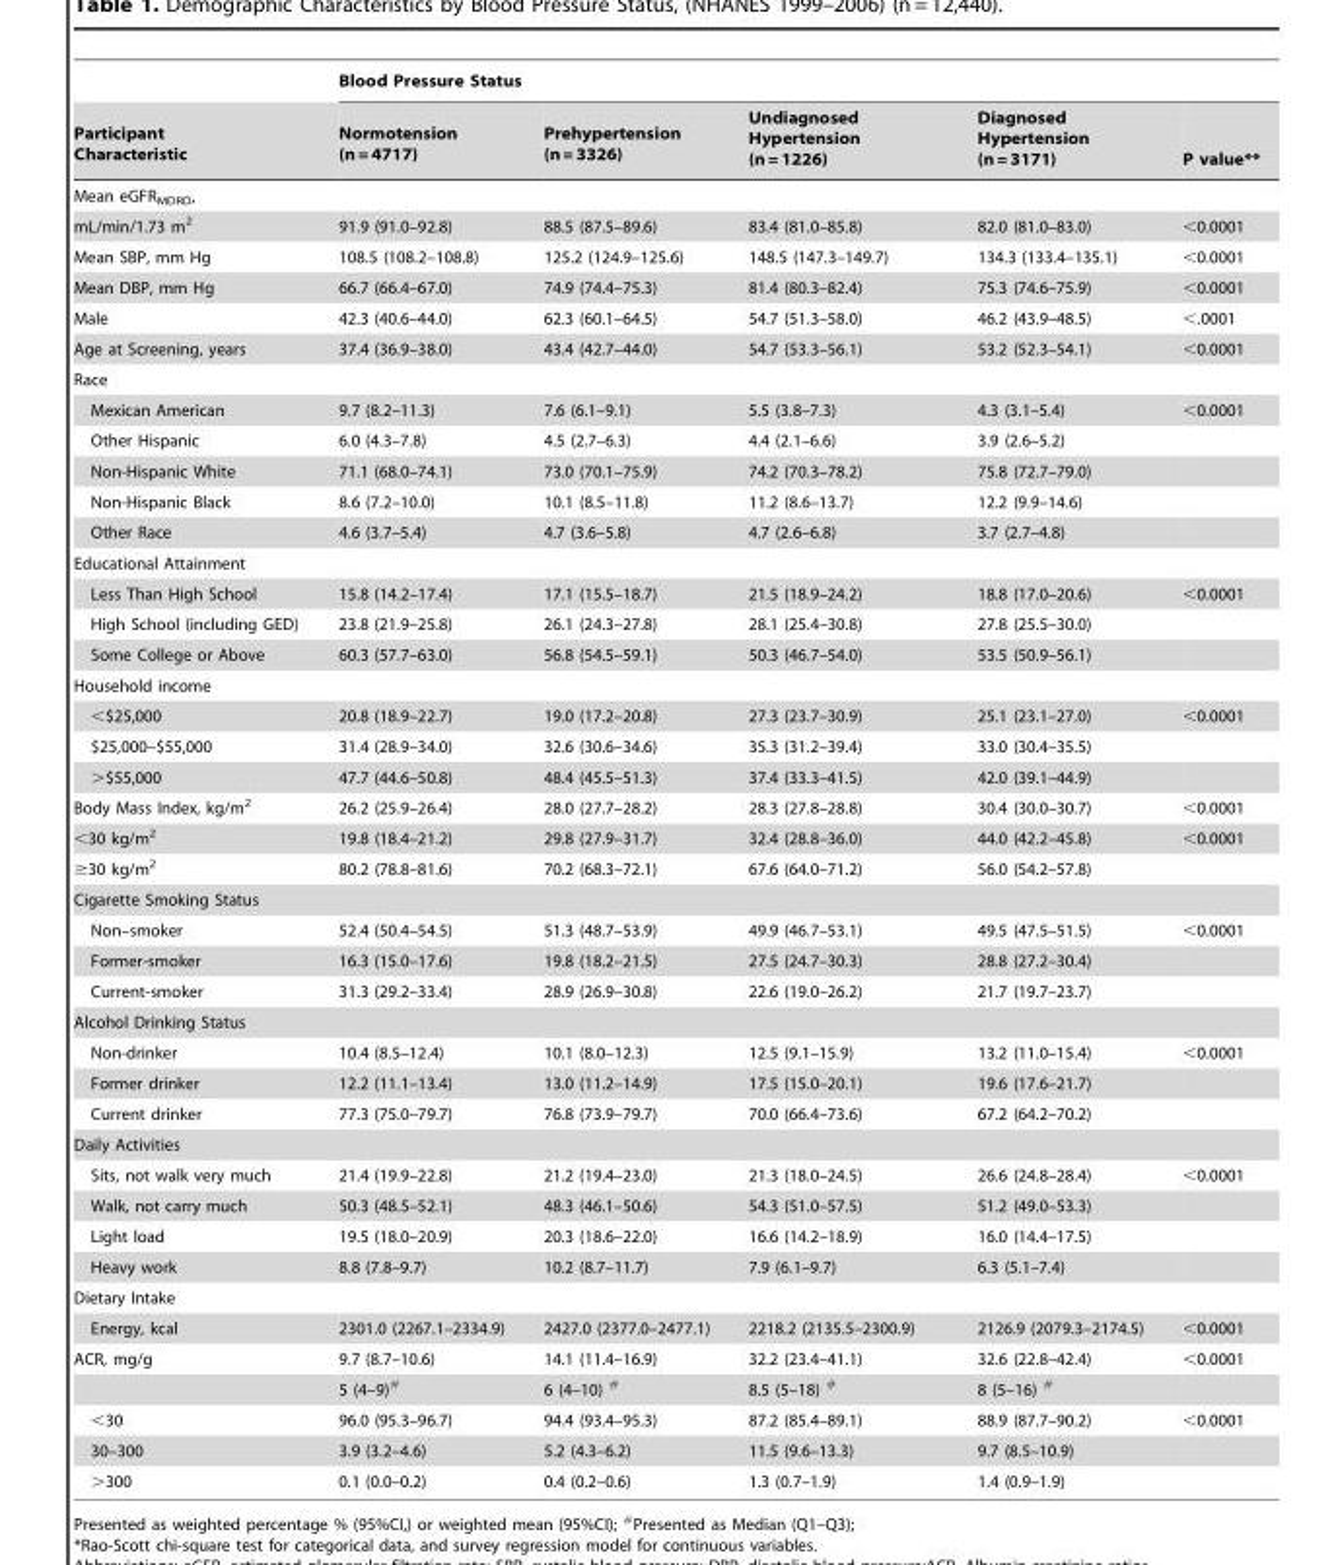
<table><thead><tr><td rowspan="2">Participant Characteristic</td><td colspan="5">Blood Pressure Status</td></tr><tr><td>Normotension (n = 4717)</td><td>Prehypertension (n = 3326)</td><td>Undiagnosed Hypertension (n = 1226)</td><td>Diagnosed Hypertension (n = 3171)</td><td>P value**</td></tr></thead><tbody><tr><td colspan="6">Mean eGFR<sub>MDRD</sub>,</td></tr><tr><td>mL/min/1.73 m<sup>2</sup></td><td>91.9 (91.0–92.8)</td><td>88.5 (87.5–89.6)</td><td>83.4 (81.0–85.8)</td><td>82.0 (81.0–83.0)</td><td>&lt;0.0001</td></tr><tr><td>Mean SBP, mm Hg</td><td>108.5 (108.2–108.8)</td><td>125.2 (124.9–125.6)</td><td>148.5 (147.3–149.7)</td><td>134.3 (133.4–135.1)</td><td>&lt;0.0001</td></tr><tr><td>Mean DBP, mm Hg</td><td>66.7 (66.4–67.0)</td><td>74.9 (74.4–75.3)</td><td>81.4 (80.3–82.4)</td><td>75.3 (74.6–75.9)</td><td>&lt;0.0001</td></tr><tr><td>Male</td><td>42.3 (40.6–44.0)</td><td>62.3 (60.1–64.5)</td><td>54.7 (51.3–58.0)</td><td>46.2 (43.9–48.5)</td><td>&lt;.0001</td></tr><tr><td>Age at Screening, years</td><td>37.4 (36.9–38.0)</td><td>43.4 (42.7–44.0)</td><td>54.7 (53.3–56.1)</td><td>53.2 (52.3–54.1)</td><td>&lt;0.0001</td></tr><tr><td colspan="6">Race</td></tr><tr><td>Mexican American</td><td>9.7 (8.2–11.3)</td><td>7.6 (6.1–9.1)</td><td>5.5 (3.8–7.3)</td><td>4.3 (3.1–5.4)</td><td>&lt;0.0001</td></tr><tr><td>Other Hispanic</td><td>6.0 (4.3–7.8)</td><td>4.5 (2.7–6.3)</td><td>4.4 (2.1–6.6)</td><td>3.9 (2.6–5.2)</td><td></td></tr><tr><td>Non-Hispanic White</td><td>71.1 (68.0–74.1)</td><td>73.0 (70.1–75.9)</td><td>74.2 (70.3–78.2)</td><td>75.8 (72.7–79.0)</td><td></td></tr><tr><td>Non-Hispanic Black</td><td>8.6 (7.2–10.0)</td><td>10.1 (8.5–11.8)</td><td>11.2 (8.6–13.7)</td><td>12.2 (9.9–14.6)</td><td></td></tr><tr><td>Other Race</td><td>4.6 (3.7–5.4)</td><td>4.7 (3.6–5.8)</td><td>4.7 (2.6–6.8)</td><td>3.7 (2.7–4.8)</td><td></td></tr><tr><td colspan="6">Educational Attainment</td></tr><tr><td>Less Than High School</td><td>15.8 (14.2–17.4)</td><td>17.1 (15.5–18.7)</td><td>21.5 (18.9–24.2)</td><td>18.8 (17.0–20.6)</td><td>&lt;0.0001</td></tr><tr><td>High School (including GED)</td><td>23.8 (21.9–25.8)</td><td>26.1 (24.3–27.8)</td><td>28.1 (25.4–30.8)</td><td>27.8 (25.5–30.0)</td><td></td></tr><tr><td>Some College or Above</td><td>60.3 (57.7–63.0)</td><td>56.8 (54.5–59.1)</td><td>50.3 (46.7–54.0)</td><td>53.5 (50.9–56.1)</td><td></td></tr><tr><td colspan="6">Household income</td></tr><tr><td>&lt;$25,000</td><td>20.8 (18.9–22.7)</td><td>19.0 (17.2–20.8)</td><td>27.3 (23.7–30.9)</td><td>25.1 (23.1–27.0)</td><td>&lt;0.0001</td></tr><tr><td>$25,000–$55,000</td><td>31.4 (28.9–34.0)</td><td>32.6 (30.6–34.6)</td><td>35.3 (31.2–39.4)</td><td>33.0 (30.4–35.5)</td><td></td></tr><tr><td>&gt;$55,000</td><td>47.7 (44.6–50.8)</td><td>48.4 (45.5–51.3)</td><td>37.4 (33.3–41.5)</td><td>42.0 (39.1–44.9)</td><td></td></tr><tr><td>Body Mass Index, kg/m<sup>2</sup></td><td>26.2 (25.9–26.4)</td><td>28.0 (27.7–28.2)</td><td>28.3 (27.8–28.8)</td><td>30.4 (30.0–30.7)</td><td>&lt;0.0001</td></tr><tr><td>&lt;30 kg/m<sup>2</sup></td><td>19.8 (18.4–21.2)</td><td>29.8 (27.9–31.7)</td><td>32.4 (28.8–36.0)</td><td>44.0 (42.2–45.8)</td><td>&lt;0.0001</td></tr><tr><td>≥30 kg/m<sup>2</sup></td><td>80.2 (78.8–81.6)</td><td>70.2 (68.3–72.1)</td><td>67.6 (64.0–71.2)</td><td>56.0 (54.2–57.8)</td><td></td></tr><tr><td colspan="6">Cigarette Smoking Status</td></tr><tr><td>Non–smoker</td><td>52.4 (50.4–54.5)</td><td>51.3 (48.7–53.9)</td><td>49.9 (46.7–53.1)</td><td>49.5 (47.5–51.5)</td><td>&lt;0.0001</td></tr><tr><td>Former-smoker</td><td>16.3 (15.0–17.6)</td><td>19.8 (18.2–21.5)</td><td>27.5 (24.7–30.3)</td><td>28.8 (27.2–30.4)</td><td></td></tr><tr><td>Current-smoker</td><td>31.3 (29.2–33.4)</td><td>28.9 (26.9–30.8)</td><td>22.6 (19.0–26.2)</td><td>21.7 (19.7–23.7)</td><td></td></tr><tr><td colspan="6">Alcohol Drinking Status</td></tr><tr><td>Non-drinker</td><td>10.4 (8.5–12.4)</td><td>10.1 (8.0–12.3)</td><td>12.5 (9.1–15.9)</td><td>13.2 (11.0–15.4)</td><td>&lt;0.0001</td></tr><tr><td>Former drinker</td><td>12.2 (11.1–13.4)</td><td>13.0 (11.2–14.9)</td><td>17.5 (15.0–20.1)</td><td>19.6 (17.6–21.7)</td><td></td></tr><tr><td>Current drinker</td><td>77.3 (75.0–79.7)</td><td>76.8 (73.9–79.7)</td><td>70.0 (66.4–73.6)</td><td>67.2 (64.2–70.2)</td><td></td></tr><tr><td colspan="6">Daily Activities</td></tr><tr><td>Sits, not walk very much</td><td>21.4 (19.9–22.8)</td><td>21.2 (19.4–23.0)</td><td>21.3 (18.0–24.5)</td><td>26.6 (24.8–28.4)</td><td>&lt;0.0001</td></tr><tr><td>Walk, not carry much</td><td>50.3 (48.5–52.1)</td><td>48.3 (46.1–50.6)</td><td>54.3 (51.0–57.5)</td><td>51.2 (49.0–53.3)</td><td></td></tr><tr><td>Light load</td><td>19.5 (18.0–20.9)</td><td>20.3 (18.6–22.0)</td><td>16.6 (14.2–18.9)</td><td>16.0 (14.4–17.5)</td><td></td></tr><tr><td>Heavy work</td><td>8.8 (7.8–9.7)</td><td>10.2 (8.7–11.7)</td><td>7.9 (6.1–9.7)</td><td>6.3 (5.1–7.4)</td><td></td></tr><tr><td colspan="6">Dietary Intake</td></tr><tr><td>Energy, kcal</td><td>2301.0 (2267.1–2334.9)</td><td>2427.0 (2377.0–2477.1)</td><td>2218.2 (2135.5–2300.9)</td><td>2126.9 (2079.3–2174.5)</td><td>&lt;0.0001</td></tr><tr><td rowspan="2">ACR, mg/g</td><td>9.7 (8.7–10.6)</td><td>14.1 (11.4–16.9)</td><td>32.2 (23.4–41.1)</td><td>32.6 (22.8–42.4)</td><td>&lt;0.0001</td></tr><tr><td>5 (4–9)<sup>#</sup></td><td>6 (4–10) <sup>#</sup></td><td>8.5 (5–18) <sup>#</sup></td><td>8 (5–16) <sup>#</sup></td><td></td></tr><tr><td>&lt;30</td><td>96.0 (95.3–96.7)</td><td>94.4 (93.4–95.3)</td><td>87.2 (85.4–89.1)</td><td>88.9 (87.7–90.2)</td><td>&lt;0.0001</td></tr><tr><td>30–300</td><td>3.9 (3.2–4.6)</td><td>5.2 (4.3–6.2)</td><td>11.5 (9.6–13.3)</td><td>9.7 (8.5–10.9)</td><td></td></tr><tr><td>&gt;300</td><td>0.1 (0.0–0.2)</td><td>0.4 (0.2–0.6)</td><td>1.3 (0.7–1.9)</td><td>1.4 (0.9–1.9)</td><td></td></tr></tbody></table>